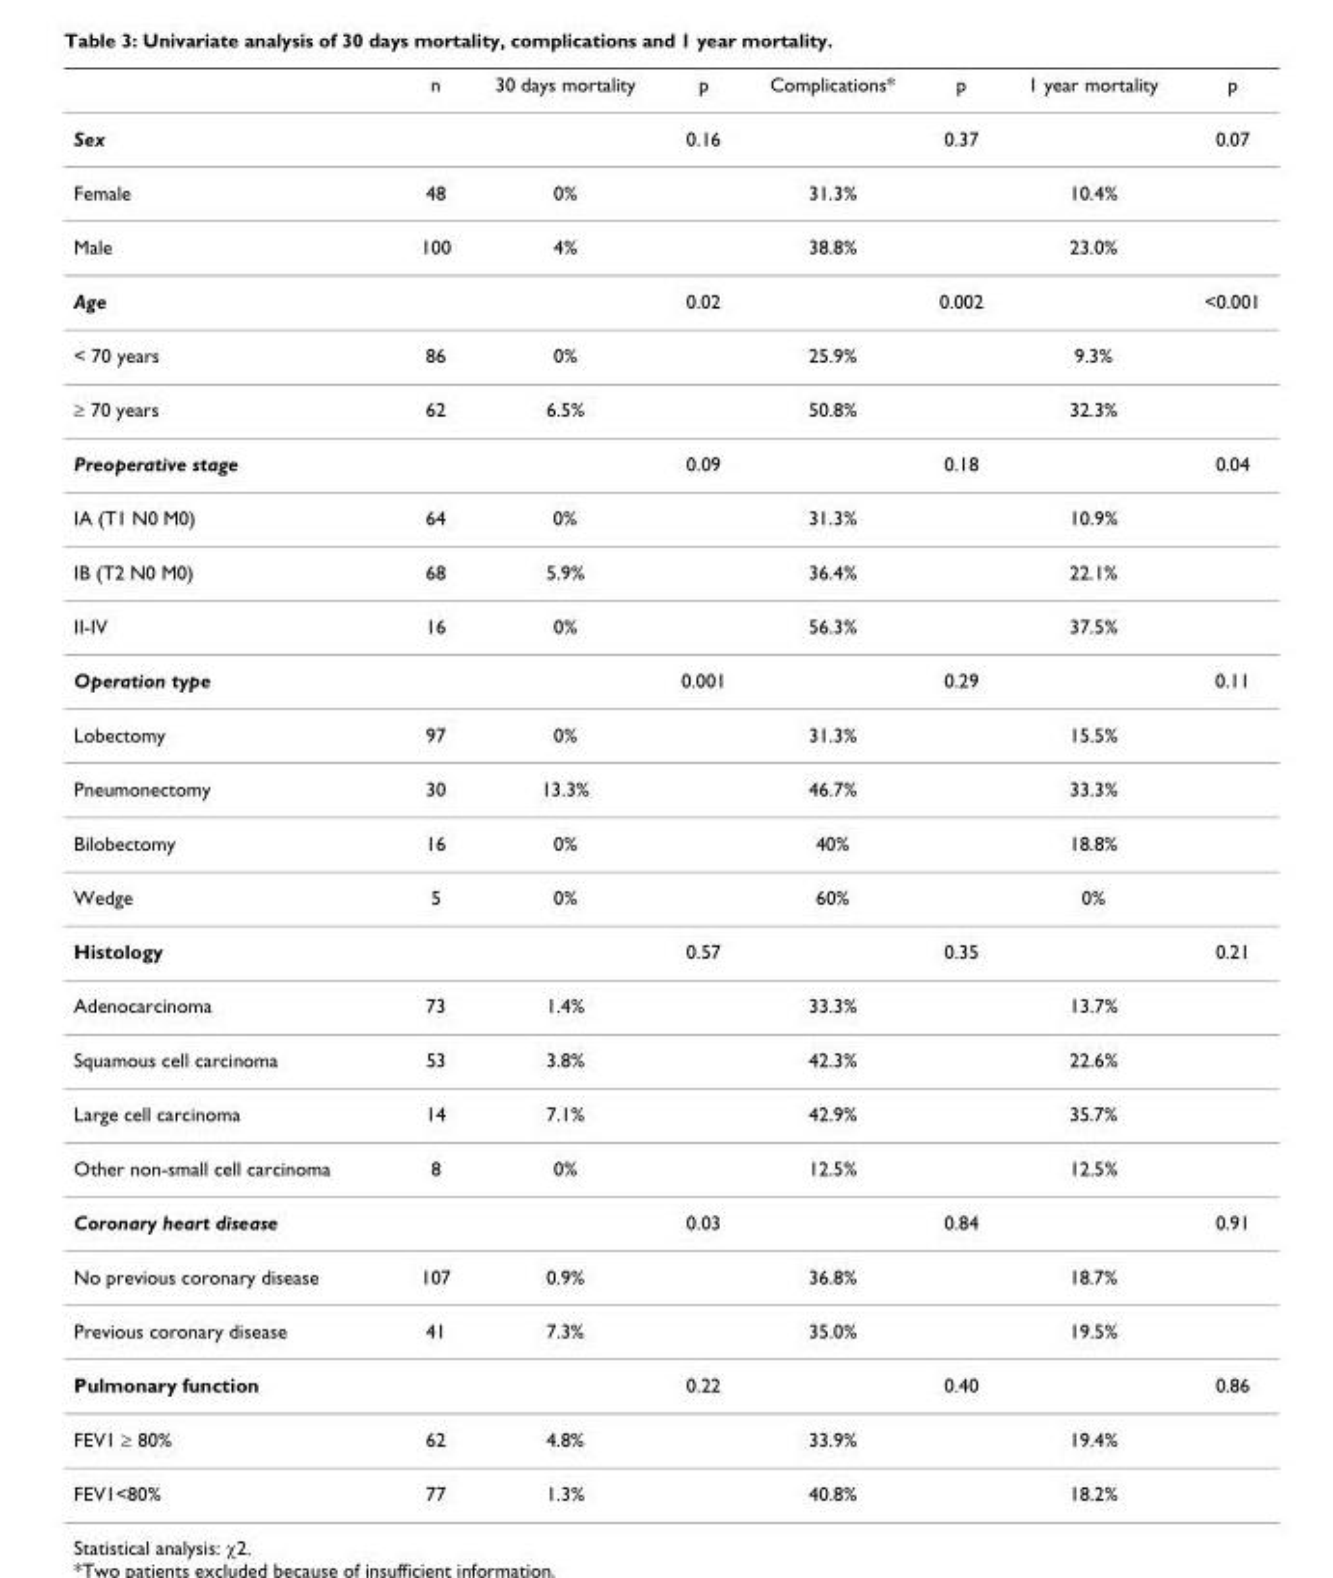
<table><thead><tr><td></td><td>n</td><td>30 days mortality</td><td>p</td><td>Complications*</td><td>p</td><td>1 year mortality</td><td>p</td></tr></thead><tbody><tr><td>Sex</td><td></td><td></td><td>0.16</td><td></td><td>0.37</td><td></td><td>0.07</td></tr><tr><td>Female</td><td>48</td><td>0%</td><td></td><td>31.3%</td><td></td><td>10.4%</td><td></td></tr><tr><td>Male</td><td>100</td><td>4%</td><td></td><td>38.8%</td><td></td><td>23.0%</td><td></td></tr><tr><td>Age</td><td></td><td></td><td>0.02</td><td></td><td>0.002</td><td></td><td>&lt;0.001</td></tr><tr><td>&lt; 70 years</td><td>86</td><td>0%</td><td></td><td>25.9%</td><td></td><td>9.3%</td><td></td></tr><tr><td>≥ 70 years</td><td>62</td><td>6.5%</td><td></td><td>50.8%</td><td></td><td>32.3%</td><td></td></tr><tr><td>Preoperative stage</td><td></td><td></td><td>0.09</td><td></td><td>0.18</td><td></td><td>0.04</td></tr><tr><td>IA (T1 N0 M0)</td><td>64</td><td>0%</td><td></td><td>31.3%</td><td></td><td>10.9%</td><td></td></tr><tr><td>IB (T2 N0 M0)</td><td>68</td><td>5.9%</td><td></td><td>36.4%</td><td></td><td>22.1%</td><td></td></tr><tr><td>II-IV</td><td>16</td><td>0%</td><td></td><td>56.3%</td><td></td><td>37.5%</td><td></td></tr><tr><td>Operation type</td><td></td><td></td><td>0.001</td><td></td><td>0.29</td><td></td><td>0.11</td></tr><tr><td>Lobectomy</td><td>97</td><td>0%</td><td></td><td>31.3%</td><td></td><td>15.5%</td><td></td></tr><tr><td>Pneumonectomy</td><td>30</td><td>13.3%</td><td></td><td>46.7%</td><td></td><td>33.3%</td><td></td></tr><tr><td>Bilobectomy</td><td>16</td><td>0%</td><td></td><td>40%</td><td></td><td>18.8%</td><td></td></tr><tr><td>Wedge</td><td>5</td><td>0%</td><td></td><td>60%</td><td></td><td>0%</td><td></td></tr><tr><td>Histology</td><td></td><td></td><td>0.57</td><td></td><td>0.35</td><td></td><td>0.21</td></tr><tr><td>Adenocarcinoma</td><td>73</td><td>1.4%</td><td></td><td>33.3%</td><td></td><td>13.7%</td><td></td></tr><tr><td>Squamous cell carcinoma</td><td>53</td><td>3.8%</td><td></td><td>42.3%</td><td></td><td>22.6%</td><td></td></tr><tr><td>Large cell carcinoma</td><td>14</td><td>7.1%</td><td></td><td>42.9%</td><td></td><td>35.7%</td><td></td></tr><tr><td>Other non-small cell carcinoma</td><td>8</td><td>0%</td><td></td><td>12.5%</td><td></td><td>12.5%</td><td></td></tr><tr><td>Coronary heart disease</td><td></td><td></td><td>0.03</td><td></td><td>0.84</td><td></td><td>0.91</td></tr><tr><td>No previous coronary disease</td><td>107</td><td>0.9%</td><td></td><td>36.8%</td><td></td><td>18.7%</td><td></td></tr><tr><td>Previous coronary disease</td><td>41</td><td>7.3%</td><td></td><td>35.0%</td><td></td><td>19.5%</td><td></td></tr><tr><td>Pulmonary function</td><td></td><td></td><td>0.22</td><td></td><td>0.40</td><td></td><td>0.86</td></tr><tr><td>FEV1 ≥ 80%</td><td>62</td><td>4.8%</td><td></td><td>33.9%</td><td></td><td>19.4%</td><td></td></tr><tr><td>FEV1&lt;80%</td><td>77</td><td>1.3%</td><td></td><td>40.8%</td><td></td><td>18.2%</td><td></td></tr></tbody></table>